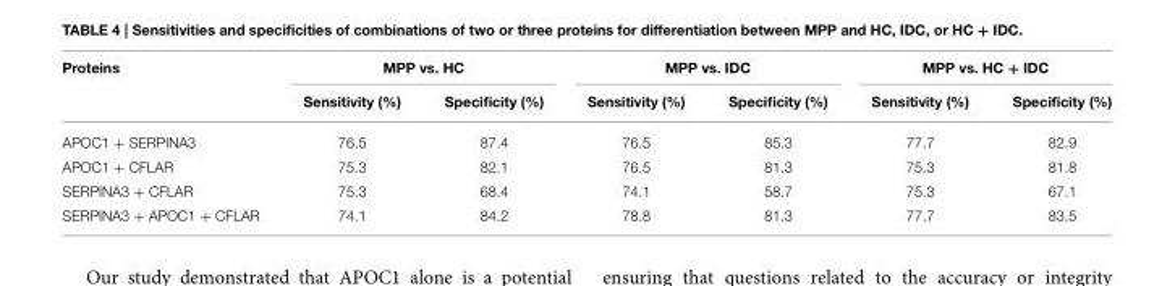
<table><thead><tr><td rowspan="2">Proteins</td><td colspan="2">MPP vs. HC</td><td colspan="2">MPP vs. IDC</td><td colspan="2">MPP vs. HC + IDC</td></tr><tr><td>Sensitivity (%)</td><td>Specificity (%)</td><td>Sensitivity (%)</td><td>Specificity (%)</td><td>Sensitivity (%)</td><td>Specificity (%)</td></tr></thead><tbody><tr><td>APOC1 + SERPINA3</td><td>76.5</td><td>87.4</td><td>76.5</td><td>85.3</td><td>77.7</td><td>82.9</td></tr><tr><td>APOC1 + CFLAR</td><td>75.3</td><td>82.1</td><td>76.5</td><td>81.3</td><td>75.3</td><td>81.8</td></tr><tr><td>SERPINA3 + CFLAR</td><td>75.3</td><td>68.4</td><td>74.1</td><td>58.7</td><td>75.3</td><td>67.1</td></tr><tr><td>SERPINA3 + APOC1 + CFLAR</td><td>74.1</td><td>84.2</td><td>78.8</td><td>81.3</td><td>77.7</td><td>83.5</td></tr></tbody></table>